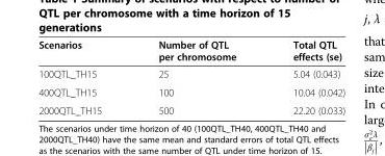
<table><thead><tr><td>Scenarios</td><td>Number of QTL per chromosome</td><td>Total QTL effects (se)</td></tr></thead><tbody><tr><td>100QTL_TH15</td><td>25</td><td>5.04 (0.043)</td></tr><tr><td>400QTL_TH15</td><td>100</td><td>10.04 (0.042)</td></tr><tr><td>2000QTL_TH15</td><td>500</td><td>22.20 (0.033)</td></tr></tbody></table>